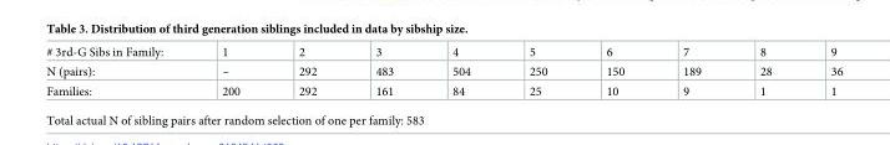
<table><tbody><tr><td># 3rd-G Sibs in Family:</td><td>1</td><td>2</td><td>3</td><td>4</td><td>5</td><td>6</td><td>7</td><td>8</td><td>9</td></tr><tr><td>N (pairs):</td><td>–</td><td>292</td><td>483</td><td>504</td><td>250</td><td>150</td><td>189</td><td>28</td><td>36</td></tr><tr><td>Families:</td><td>200</td><td>292</td><td>161</td><td>84</td><td>25</td><td>10</td><td>9</td><td>1</td><td>1</td></tr></tbody></table>